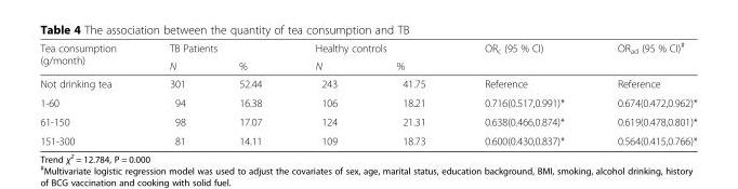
<table><thead><tr><td rowspan="2">Tea consumption (g/month)</td><td colspan="2">TB Patients</td><td colspan="2">Healthy controls</td><td rowspan="2">OR<sub>c</sub> (95 % CI)</td><td rowspan="2">OR<sub>ad</sub> (95 % CI)<sup>#</sup></td></tr><tr><td>N</td><td>%</td><td>N</td><td>%</td></tr></thead><tbody><tr><td>Not drinking tea</td><td>301</td><td>52.44</td><td>243</td><td>41.75</td><td>Reference</td><td>Reference</td></tr><tr><td>1-60</td><td>94</td><td>16.38</td><td>106</td><td>18.21</td><td>0.716(0.517,0.991)*</td><td>0.674(0.472,0.962)*</td></tr><tr><td>61-150</td><td>98</td><td>17.07</td><td>124</td><td>21.31</td><td>0.638(0.466,0.874)*</td><td>0.619(0.478,0.801)*</td></tr><tr><td>151-300</td><td>81</td><td>14.11</td><td>109</td><td>18.73</td><td>0.600(0.430,0.837)*</td><td>0.564(0.415,0.766)*</td></tr></tbody></table>